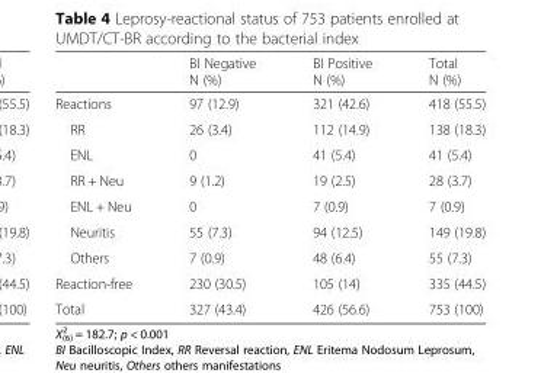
<table><thead><tr><td></td><td>BI Negative N (%)</td><td>BI Positive N (%)</td><td>Total N (%)</td></tr></thead><tbody><tr><td>Reactions</td><td>97 (12.9)</td><td>321 (42.6)</td><td>418 (55.5)</td></tr><tr><td>RR</td><td>26 (3.4)</td><td>112 (14.9)</td><td>138 (18.3)</td></tr><tr><td>ENL</td><td>0</td><td>41 (5.4)</td><td>41 (5.4)</td></tr><tr><td>RR + Neu</td><td>9 (1.2)</td><td>19 (2.5)</td><td>28 (3.7)</td></tr><tr><td>ENL + Neu</td><td>0</td><td>7 (0.9)</td><td>7 (0.9)</td></tr><tr><td>Neuritis</td><td>55 (7.3)</td><td>94 (12.5)</td><td>149 (19.8)</td></tr><tr><td>Others</td><td>7 (0.9)</td><td>48 (6.4)</td><td>55 (7.3)</td></tr><tr><td>Reaction-free</td><td>230 (30.5)</td><td>105 (14)</td><td>335 (44.5)</td></tr><tr><td>Total</td><td>327 (43.4)</td><td>426 (56.6)</td><td>753 (100)</td></tr></tbody></table>